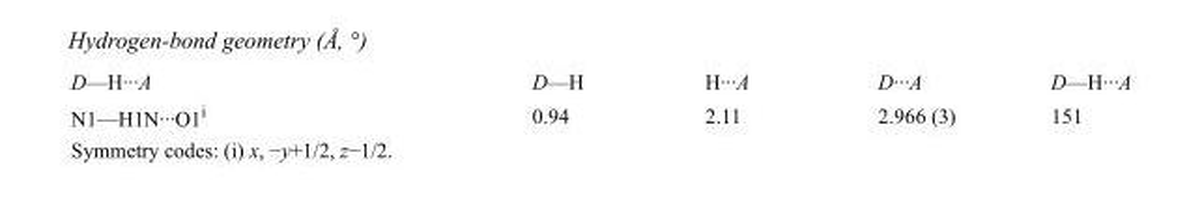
<table><tbody><tr><td>D—H···A</td><td>D—H</td><td>H···A</td><td>D···A</td><td>D—H···A</td></tr><tr><td>N1—H1N···O1<sup>i</sup></td><td>0.94</td><td>2.11</td><td>2.966 (3)</td><td>151</td></tr></tbody></table>